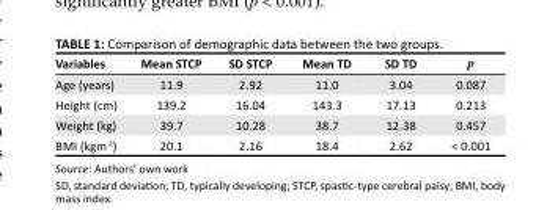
<table><thead><tr><td>Variables</td><td>Mean STCP</td><td>SD STCP</td><td>Mean TD</td><td>SD TD</td><td>p</td></tr></thead><tbody><tr><td>Age (years)</td><td>11.9</td><td>2.92</td><td>11.0</td><td>3.04</td><td>0.087</td></tr><tr><td>Height (cm)</td><td>139.2</td><td>16.04</td><td>143.3</td><td>17.13</td><td>0.213</td></tr><tr><td>Weight (kg)</td><td>39.7</td><td>10.28</td><td>38.7</td><td>12.38</td><td>0.457</td></tr><tr><td>BMI (kgm<sup>-2</sup>)</td><td>20.1</td><td>2.16</td><td>18.4</td><td>2.62</td><td>&lt; 0.001</td></tr></tbody></table>